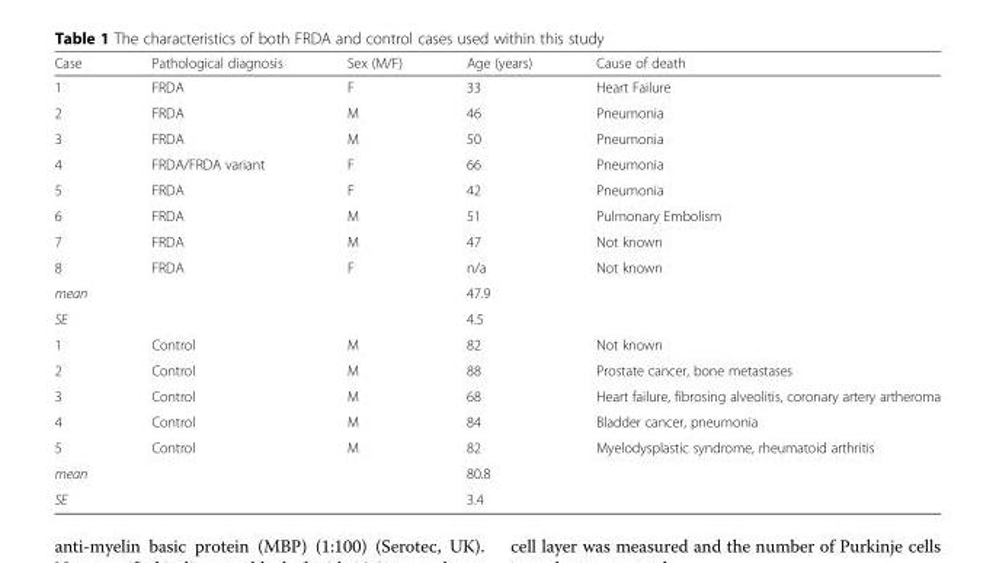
<table><thead><tr><td>Case</td><td>Pathological diagnosis</td><td>Sex (M/F)</td><td>Age (years)</td><td>Cause of death</td></tr></thead><tbody><tr><td>1</td><td>FRDA</td><td>F</td><td>33</td><td>Heart Failure</td></tr><tr><td>2</td><td>FRDA</td><td>M</td><td>46</td><td>Pneumonia</td></tr><tr><td>3</td><td>FRDA</td><td>M</td><td>50</td><td>Pneumonia</td></tr><tr><td>4</td><td>FRDA/FRDA variant</td><td>F</td><td>66</td><td>Pneumonia</td></tr><tr><td>5</td><td>FRDA</td><td>F</td><td>42</td><td>Pneumonia</td></tr><tr><td>6</td><td>FRDA</td><td>M</td><td>51</td><td>Pulmonary Embolism</td></tr><tr><td>7</td><td>FRDA</td><td>M</td><td>47</td><td>Not known</td></tr><tr><td>8</td><td>FRDA</td><td>F</td><td>n/a</td><td>Not known</td></tr><tr><td>mean</td><td></td><td></td><td>47.9</td><td></td></tr><tr><td>SE</td><td></td><td></td><td>4.5</td><td></td></tr><tr><td>1</td><td>Control</td><td>M</td><td>82</td><td>Not known</td></tr><tr><td>2</td><td>Control</td><td>M</td><td>88</td><td>Prostate cancer, bone metastases</td></tr><tr><td>3</td><td>Control</td><td>M</td><td>68</td><td>Heart failure, fibrosing alveolitis, coronary artery artheroma</td></tr><tr><td>4</td><td>Control</td><td>M</td><td>84</td><td>Bladder cancer, pneumonia</td></tr><tr><td>5</td><td>Control</td><td>M</td><td>82</td><td>Myelodysplastic syndrome, rheumatoid arthritis</td></tr><tr><td>mean</td><td></td><td></td><td>80.8</td><td></td></tr><tr><td>SE</td><td></td><td></td><td>3.4</td><td></td></tr></tbody></table>